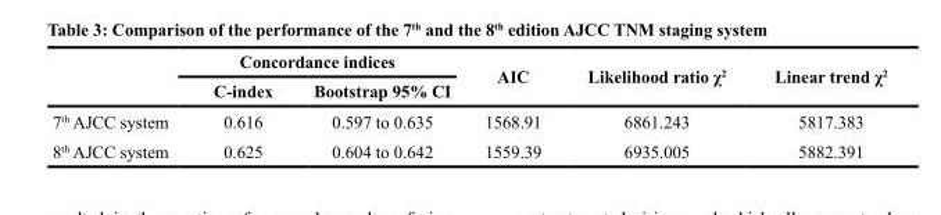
<table><thead><tr><td rowspan="2"></td><td colspan="2">Concordance indices</td><td rowspan="2">AIC</td><td rowspan="2">Likelihood ratio χ<sup>2</sup></td><td rowspan="2">Linear trend χ<sup>2</sup></td></tr><tr><td>C-index</td><td>Bootstrap 95% CI</td></tr></thead><tbody><tr><td>7<sup>th</sup> AJCC system</td><td>0.616</td><td>0.597 to 0.635</td><td>1568.91</td><td>6861.243</td><td>5817.383</td></tr><tr><td>8<sup>th</sup> AJCC system</td><td>0.625</td><td>0.604 to 0.642</td><td>1559.39</td><td>6935.005</td><td>5882.391</td></tr></tbody></table>